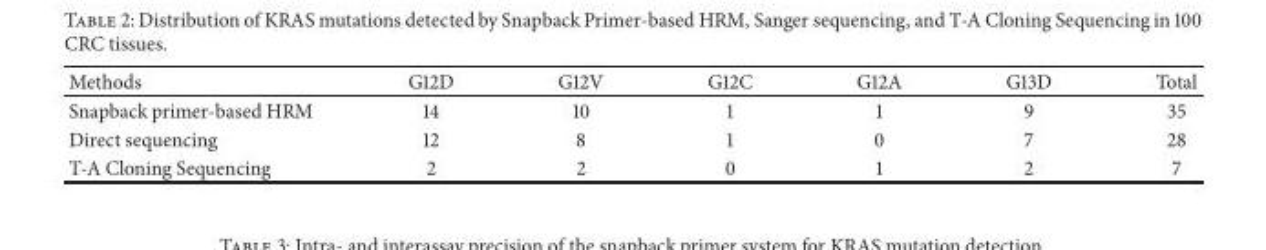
<table><thead><tr><td>Methods</td><td>G12D</td><td>G12V</td><td>G12C</td><td>G12A</td><td>G13D</td><td>Total</td></tr></thead><tbody><tr><td>Snapback primer-based HRM</td><td>14</td><td>10</td><td>1</td><td>1</td><td>9</td><td>35</td></tr><tr><td>Direct sequencing</td><td>12</td><td>8</td><td>1</td><td>0</td><td>7</td><td>28</td></tr><tr><td>T-A Cloning Sequencing</td><td>2</td><td>2</td><td>0</td><td>1</td><td>2</td><td>7</td></tr></tbody></table>